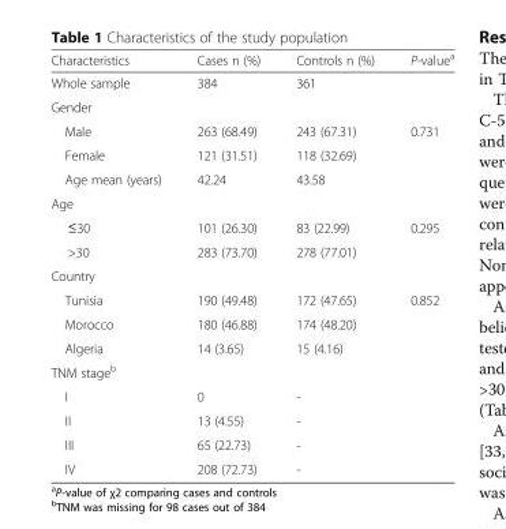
<table><thead><tr><td>Characteristics</td><td>Cases n (%)</td><td>Controls n (%)</td><td>P-value<sup>a</sup></td></tr></thead><tbody><tr><td>Whole sample</td><td>384</td><td>361</td><td></td></tr><tr><td colspan="4">Gender</td></tr><tr><td>Male</td><td>263 (68.49)</td><td>243 (67.31)</td><td>0.731</td></tr><tr><td>Female</td><td>121 (31.51)</td><td>118 (32.69)</td><td></td></tr><tr><td>Age mean (years)</td><td>42.24</td><td>43.58</td><td></td></tr><tr><td colspan="4">Age</td></tr><tr><td>≤30</td><td>101 (26.30)</td><td>83 (22.99)</td><td>0.295</td></tr><tr><td>&gt;30</td><td>283 (73.70)</td><td>278 (77.01)</td><td></td></tr><tr><td colspan="4">Country</td></tr><tr><td>Tunisia</td><td>190 (49.48)</td><td>172 (47.65)</td><td>0.852</td></tr><tr><td>Morocco</td><td>180 (46.88)</td><td>174 (48.20)</td><td></td></tr><tr><td>Algeria</td><td>14 (3.65)</td><td>15 (4.16)</td><td></td></tr><tr><td colspan="4">TNM stage<sup>b</sup></td></tr><tr><td>I</td><td>0</td><td>-</td><td></td></tr><tr><td>II</td><td>13 (4.55)</td><td>-</td><td></td></tr><tr><td>III</td><td>65 (22.73)</td><td>-</td><td></td></tr><tr><td>IV</td><td>208 (72.73)</td><td>-</td><td></td></tr></tbody></table>